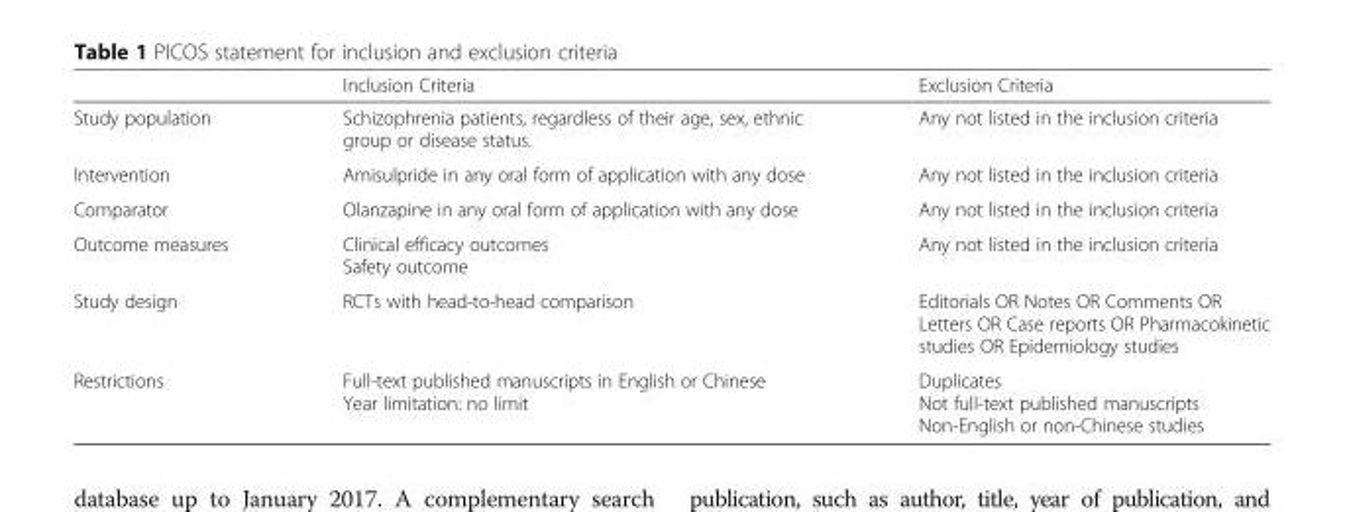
<table><thead><tr><td></td><td>Inclusion Criteria</td><td>Exclusion Criteria</td></tr></thead><tbody><tr><td>Study population</td><td>Schizophrenia patients, regardless of their age, sex, ethnic group or disease status.</td><td>Any not listed in the inclusion criteria</td></tr><tr><td>Intervention</td><td>Amisulpride in any oral form of application with any dose</td><td>Any not listed in the inclusion criteria</td></tr><tr><td>Comparator</td><td>Olanzapine in any oral form of application with any dose</td><td>Any not listed in the inclusion criteria</td></tr><tr><td>Outcome measures</td><td>Clinical efficacy outcomes Safety outcome</td><td>Any not listed in the inclusion criteria</td></tr><tr><td>Study design</td><td>RCTs with head-to-head comparison</td><td>Editorials OR Notes OR Comments OR Letters OR Case reports OR Pharmacokinetic studies OR Epidemiology studies</td></tr><tr><td>Restrictions</td><td>Full-text published manuscripts in English or Chinese Year limitation: no limit</td><td>Duplicates Not full-text published manuscripts Non-English or non-Chinese studies</td></tr></tbody></table>